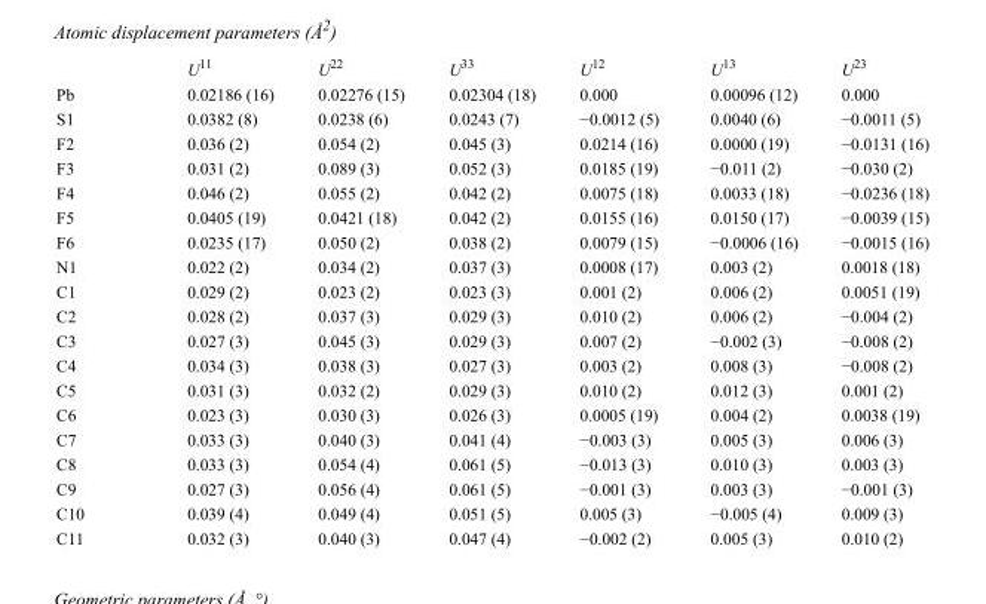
<table><thead><tr><td></td><td>U<sup>11</sup></td><td>U<sup>22</sup></td><td>U<sup>33</sup></td><td>U<sup>12</sup></td><td>U<sup>13</sup></td><td>U<sup>23</sup></td></tr></thead><tbody><tr><td>Pb</td><td>0.02186 (16)</td><td>0.02276 (15)</td><td>0.02304 (18)</td><td>0.000</td><td>0.00096 (12)</td><td>0.000</td></tr><tr><td>S1</td><td>0.0382 (8)</td><td>0.0238 (6)</td><td>0.0243 (7)</td><td>−0.0012 (5)</td><td>0.0040 (6)</td><td>−0.0011 (5)</td></tr><tr><td>F2</td><td>0.036 (2)</td><td>0.054 (2)</td><td>0.045 (3)</td><td>0.0214 (16)</td><td>0.0000 (19)</td><td>−0.0131 (16)</td></tr><tr><td>F3</td><td>0.031 (2)</td><td>0.089 (3)</td><td>0.052 (3)</td><td>0.0185 (19)</td><td>−0.011 (2)</td><td>−0.030 (2)</td></tr><tr><td>F4</td><td>0.046 (2)</td><td>0.055 (2)</td><td>0.042 (2)</td><td>0.0075 (18)</td><td>0.0033 (18)</td><td>−0.0236 (18)</td></tr><tr><td>F5</td><td>0.0405 (19)</td><td>0.0421 (18)</td><td>0.042 (2)</td><td>0.0155 (16)</td><td>0.0150 (17)</td><td>−0.0039 (15)</td></tr><tr><td>F6</td><td>0.0235 (17)</td><td>0.050 (2)</td><td>0.038 (2)</td><td>0.0079 (15)</td><td>−0.0006 (16)</td><td>−0.0015 (16)</td></tr><tr><td>N1</td><td>0.022 (2)</td><td>0.034 (2)</td><td>0.037 (3)</td><td>0.0008 (17)</td><td>0.003 (2)</td><td>0.0018 (18)</td></tr><tr><td>C1</td><td>0.029 (2)</td><td>0.023 (2)</td><td>0.023 (3)</td><td>0.001 (2)</td><td>0.006 (2)</td><td>0.0051 (19)</td></tr><tr><td>C2</td><td>0.028 (2)</td><td>0.037 (3)</td><td>0.029 (3)</td><td>0.010 (2)</td><td>0.006 (2)</td><td>−0.004 (2)</td></tr><tr><td>C3</td><td>0.027 (3)</td><td>0.045 (3)</td><td>0.029 (3)</td><td>0.007 (2)</td><td>−0.002 (3)</td><td>−0.008 (2)</td></tr><tr><td>C4</td><td>0.034 (3)</td><td>0.038 (3)</td><td>0.027 (3)</td><td>0.003 (2)</td><td>0.008 (3)</td><td>−0.008 (2)</td></tr><tr><td>C5</td><td>0.031 (3)</td><td>0.032 (2)</td><td>0.029 (3)</td><td>0.010 (2)</td><td>0.012 (3)</td><td>0.001 (2)</td></tr><tr><td>C6</td><td>0.023 (3)</td><td>0.030 (3)</td><td>0.026 (3)</td><td>0.0005 (19)</td><td>0.004 (2)</td><td>0.0038 (19)</td></tr><tr><td>C7</td><td>0.033 (3)</td><td>0.040 (3)</td><td>0.041 (4)</td><td>−0.003 (3)</td><td>0.005 (3)</td><td>0.006 (3)</td></tr><tr><td>C8</td><td>0.033 (3)</td><td>0.054 (4)</td><td>0.061 (5)</td><td>−0.013 (3)</td><td>0.010 (3)</td><td>0.003 (3)</td></tr><tr><td>C9</td><td>0.027 (3)</td><td>0.056 (4)</td><td>0.061 (5)</td><td>−0.001 (3)</td><td>0.003 (3)</td><td>−0.001 (3)</td></tr><tr><td>C10</td><td>0.039 (4)</td><td>0.049 (4)</td><td>0.051 (5)</td><td>0.005 (3)</td><td>−0.005 (4)</td><td>0.009 (3)</td></tr><tr><td>C11</td><td>0.032 (3)</td><td>0.040 (3)</td><td>0.047 (4)</td><td>−0.002 (2)</td><td>0.005 (3)</td><td>0.010 (2)</td></tr></tbody></table>